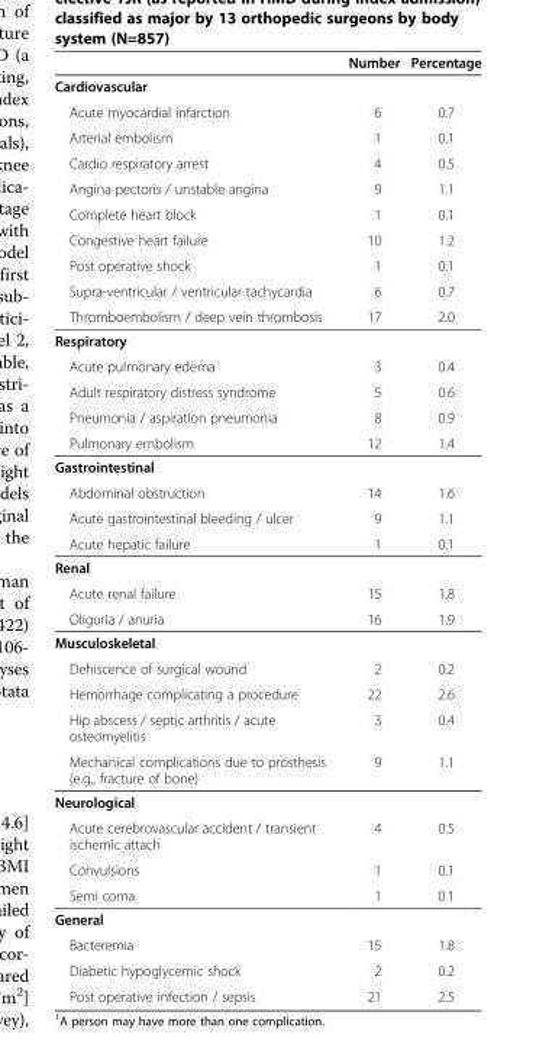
<table><thead><tr><td></td><td>Number</td><td>Percentage</td></tr></thead><tbody><tr><td colspan="3">Cardiovascular</td></tr><tr><td>Acute myocardial infarction</td><td>6</td><td>0.7</td></tr><tr><td>Arterial embolism</td><td>1</td><td>0.1</td></tr><tr><td>Cardio respiratory arrest</td><td>4</td><td>0.5</td></tr><tr><td>Angina pectoris / unstable angina</td><td>9</td><td>1.1</td></tr><tr><td>Complete heart block</td><td>1</td><td>0.1</td></tr><tr><td>Congestive heart failure</td><td>10</td><td>1.2</td></tr><tr><td>Post operative shock</td><td>1</td><td>0.1</td></tr><tr><td>Supra-ventricular / ventricular tachycardia</td><td>6</td><td>0.7</td></tr><tr><td>Thromboembolism / deep vein thrombosis</td><td>17</td><td>2.0</td></tr><tr><td colspan="3">Respiratory</td></tr><tr><td>Acute pulmonary edema</td><td>3</td><td>0.4</td></tr><tr><td>Adult respiratory distress syndrome</td><td>5</td><td>0.6</td></tr><tr><td>Pneumonia / aspiration pneumonia</td><td>8</td><td>0.9</td></tr><tr><td>Pulmonary embolism</td><td>12</td><td>1.4</td></tr><tr><td colspan="3">Gastrointestinal</td></tr><tr><td>Abdominal obstruction</td><td>14</td><td>1.6</td></tr><tr><td>Acute gastrointestinal bleeding / ulcer</td><td>9</td><td>1.1</td></tr><tr><td>Acute hepatic failure</td><td>1</td><td>0.1</td></tr><tr><td colspan="3">Renal</td></tr><tr><td>Acute renal failure</td><td>15</td><td>1.8</td></tr><tr><td>Oliguria / anuria</td><td>16</td><td>1.9</td></tr><tr><td colspan="3">Musculoskeletal</td></tr><tr><td>Dehiscence of surgical wound</td><td>2</td><td>0.2</td></tr><tr><td>Hemorrhage complicating a procedure</td><td>22</td><td>2.6</td></tr><tr><td>Hip abscess / septic arthritis / acute osteomyelitis</td><td>3</td><td>0.4</td></tr><tr><td>Mechanical complications due to prosthesis (e.g., fracture of bone)</td><td>9</td><td>1.1</td></tr><tr><td colspan="3">Neurological</td></tr><tr><td>Acute cerebrovascular accident / transient ischemic attach</td><td>4</td><td>0.5</td></tr><tr><td>Convulsions</td><td>1</td><td>0.1</td></tr><tr><td>Semi coma</td><td>1</td><td>0.1</td></tr><tr><td colspan="3">General</td></tr><tr><td>Bacteremia</td><td>15</td><td>1.8</td></tr><tr><td>Diabetic hypoglycemic shock</td><td>2</td><td>0.2</td></tr><tr><td>Post operative infection / sepsis</td><td>21</td><td>2.5</td></tr></tbody></table>